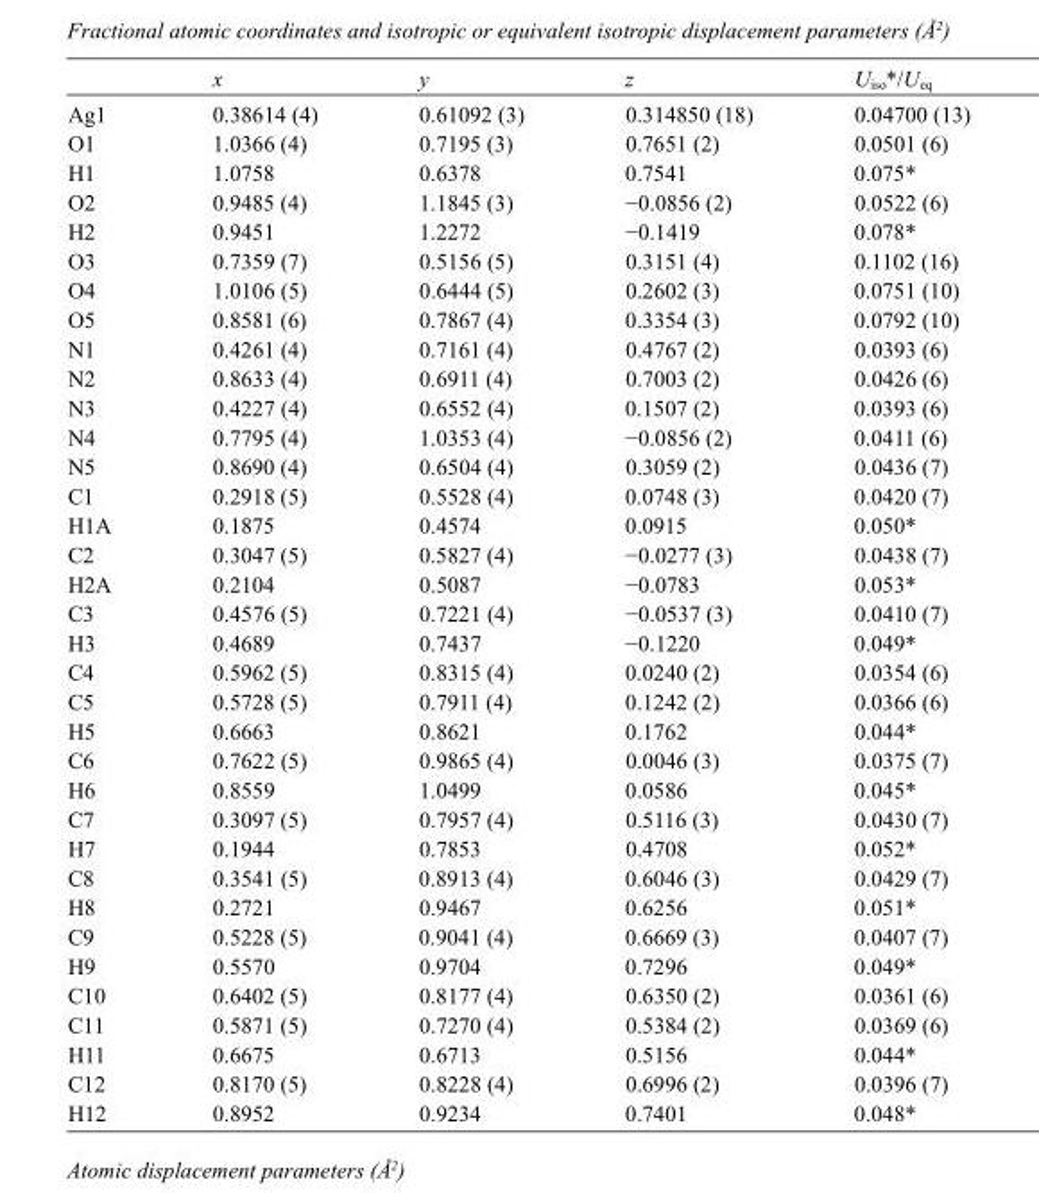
<table><thead><tr><td></td><td>x</td><td>y</td><td>z</td><td>U<sub>iso</sub>*/U<sub>eq</sub></td></tr></thead><tbody><tr><td>Ag1</td><td>0.38614 (4)</td><td>0.61092 (3)</td><td>0.314850 (18)</td><td>0.04700 (13)</td></tr><tr><td>O1</td><td>1.0366 (4)</td><td>0.7195 (3)</td><td>0.7651 (2)</td><td>0.0501 (6)</td></tr><tr><td>H1</td><td>1.0758</td><td>0.6378</td><td>0.7541</td><td>0.075*</td></tr><tr><td>O2</td><td>0.9485 (4)</td><td>1.1845 (3)</td><td>−0.0856 (2)</td><td>0.0522 (6)</td></tr><tr><td>H2</td><td>0.9451</td><td>1.2272</td><td>−0.1419</td><td>0.078*</td></tr><tr><td>O3</td><td>0.7359 (7)</td><td>0.5156 (5)</td><td>0.3151 (4)</td><td>0.1102 (16)</td></tr><tr><td>O4</td><td>1.0106 (5)</td><td>0.6444 (5)</td><td>0.2602 (3)</td><td>0.0751 (10)</td></tr><tr><td>O5</td><td>0.8581 (6)</td><td>0.7867 (4)</td><td>0.3354 (3)</td><td>0.0792 (10)</td></tr><tr><td>N1</td><td>0.4261 (4)</td><td>0.7161 (4)</td><td>0.4767 (2)</td><td>0.0393 (6)</td></tr><tr><td>N2</td><td>0.8633 (4)</td><td>0.6911 (4)</td><td>0.7003 (2)</td><td>0.0426 (6)</td></tr><tr><td>N3</td><td>0.4227 (4)</td><td>0.6552 (4)</td><td>0.1507 (2)</td><td>0.0393 (6)</td></tr><tr><td>N4</td><td>0.7795 (4)</td><td>1.0353 (4)</td><td>−0.0856 (2)</td><td>0.0411 (6)</td></tr><tr><td>N5</td><td>0.8690 (4)</td><td>0.6504 (4)</td><td>0.3059 (2)</td><td>0.0436 (7)</td></tr><tr><td>C1</td><td>0.2918 (5)</td><td>0.5528 (4)</td><td>0.0748 (3)</td><td>0.0420 (7)</td></tr><tr><td>H1A</td><td>0.1875</td><td>0.4574</td><td>0.0915</td><td>0.050*</td></tr><tr><td>C2</td><td>0.3047 (5)</td><td>0.5827 (4)</td><td>−0.0277 (3)</td><td>0.0438 (7)</td></tr><tr><td>H2A</td><td>0.2104</td><td>0.5087</td><td>−0.0783</td><td>0.053*</td></tr><tr><td>C3</td><td>0.4576 (5)</td><td>0.7221 (4)</td><td>−0.0537 (3)</td><td>0.0410 (7)</td></tr><tr><td>H3</td><td>0.4689</td><td>0.7437</td><td>−0.1220</td><td>0.049*</td></tr><tr><td>C4</td><td>0.5962 (5)</td><td>0.8315 (4)</td><td>0.0240 (2)</td><td>0.0354 (6)</td></tr><tr><td>C5</td><td>0.5728 (5)</td><td>0.7911 (4)</td><td>0.1242 (2)</td><td>0.0366 (6)</td></tr><tr><td>H5</td><td>0.6663</td><td>0.8621</td><td>0.1762</td><td>0.044*</td></tr><tr><td>C6</td><td>0.7622 (5)</td><td>0.9865 (4)</td><td>0.0046 (3)</td><td>0.0375 (7)</td></tr><tr><td>H6</td><td>0.8559</td><td>1.0499</td><td>0.0586</td><td>0.045*</td></tr><tr><td>C7</td><td>0.3097 (5)</td><td>0.7957 (4)</td><td>0.5116 (3)</td><td>0.0430 (7)</td></tr><tr><td>H7</td><td>0.1944</td><td>0.7853</td><td>0.4708</td><td>0.052*</td></tr><tr><td>C8</td><td>0.3541 (5)</td><td>0.8913 (4)</td><td>0.6046 (3)</td><td>0.0429 (7)</td></tr><tr><td>H8</td><td>0.2721</td><td>0.9467</td><td>0.6256</td><td>0.051*</td></tr><tr><td>C9</td><td>0.5228 (5)</td><td>0.9041 (4)</td><td>0.6669 (3)</td><td>0.0407 (7)</td></tr><tr><td>H9</td><td>0.5570</td><td>0.9704</td><td>0.7296</td><td>0.049*</td></tr><tr><td>C10</td><td>0.6402 (5)</td><td>0.8177 (4)</td><td>0.6350 (2)</td><td>0.0361 (6)</td></tr><tr><td>C11</td><td>0.5871 (5)</td><td>0.7270 (4)</td><td>0.5384 (2)</td><td>0.0369 (6)</td></tr><tr><td>H11</td><td>0.6675</td><td>0.6713</td><td>0.5156</td><td>0.044*</td></tr><tr><td>C12</td><td>0.8170 (5)</td><td>0.8228 (4)</td><td>0.6996 (2)</td><td>0.0396 (7)</td></tr><tr><td>H12</td><td>0.8952</td><td>0.9234</td><td>0.7401</td><td>0.048*</td></tr></tbody></table>